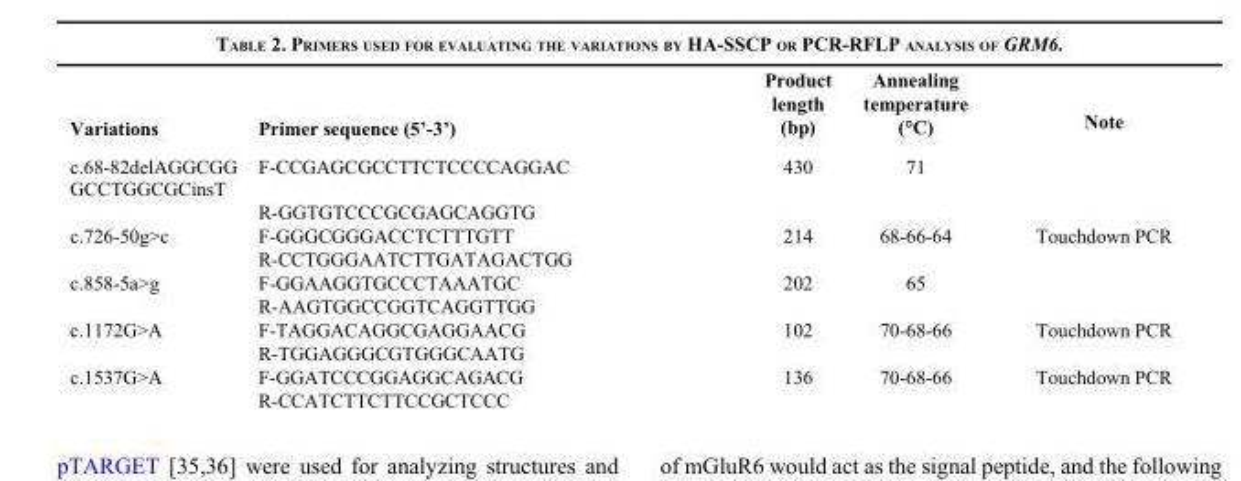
<table><thead><tr><td>Variations</td><td>Primer sequence (5’-3’)</td><td>Product length (bp)</td><td>Annealing temperature (°C)</td><td>Note</td></tr></thead><tbody><tr><td rowspan="2">c.68-82delAGGCGG GCCTGGCGCinsT</td><td>F-CCGAGCGCCTTCTCCCCAGGAC</td><td>430</td><td>71</td><td></td></tr><tr><td>R-GGTGTCCCGCGAGCAGGTG</td><td></td><td></td><td></td></tr><tr><td rowspan="2">c.726-50g&gt;c</td><td>F-GGGCGGGACCTCTTTGTT</td><td>214</td><td>68-66-64</td><td>Touchdown PCR</td></tr><tr><td>R-CCTGGGAATCTTGATAGACTGG</td><td></td><td></td><td></td></tr><tr><td rowspan="2">c.858-5a&gt;g</td><td>F-GGAAGGTGCCCTAAATGC</td><td>202</td><td>65</td><td></td></tr><tr><td>R-AAGTGGCCGGTCAGGTTGG</td><td></td><td></td><td></td></tr><tr><td rowspan="2">c.1172G&gt;A</td><td>F-TAGGACAGGCGAGGAACG</td><td>102</td><td>70-68-66</td><td>Touchdown PCR</td></tr><tr><td>R-TGGAGGGCGTGGGCAATG</td><td></td><td></td><td></td></tr><tr><td rowspan="2">c.1537G&gt;A</td><td>F-GGATCCCGGAGGCAGACG</td><td>136</td><td>70-68-66</td><td>Touchdown PCR</td></tr><tr><td>R-CCATCTTCTTCCGCTCCC</td><td></td><td></td><td></td></tr></tbody></table>